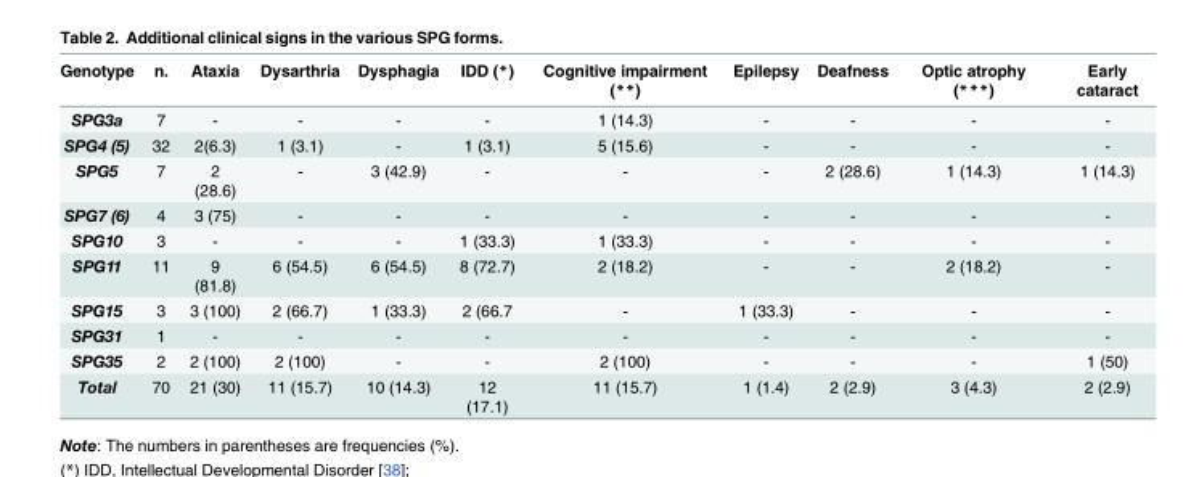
<table><thead><tr><td>Genotype</td><td>n.</td><td>Ataxia</td><td>Dysarthria</td><td>Dysphagia</td><td>IDD (*)</td><td>Cognitive impairment (**)</td><td>Epilepsy</td><td>Deafness</td><td>Optic atrophy (***)</td><td>Early cataract</td></tr></thead><tbody><tr><td>SPG3a</td><td>7</td><td>-</td><td>-</td><td>-</td><td>-</td><td>1 (14.3)</td><td>-</td><td>-</td><td>-</td><td>-</td></tr><tr><td>SPG4 (5)</td><td>32</td><td>2(6.3)</td><td>1 (3.1)</td><td>-</td><td>1 (3.1)</td><td>5 (15.6)</td><td>-</td><td>-</td><td>-</td><td>-</td></tr><tr><td>SPG5</td><td>7</td><td>2 (28.6)</td><td>-</td><td>3 (42.9)</td><td>-</td><td>-</td><td>-</td><td>2 (28.6)</td><td>1 (14.3)</td><td>1 (14.3)</td></tr><tr><td>SPG7 (6)</td><td>4</td><td>3 (75)</td><td>-</td><td>-</td><td>-</td><td>-</td><td>-</td><td>-</td><td>-</td><td>-</td></tr><tr><td>SPG10</td><td>3</td><td>-</td><td>-</td><td>-</td><td>1 (33.3)</td><td>1 (33.3)</td><td>-</td><td>-</td><td>-</td><td>-</td></tr><tr><td>SPG11</td><td>11</td><td>9 (81.8)</td><td>6 (54.5)</td><td>6 (54.5)</td><td>8 (72.7)</td><td>2 (18.2)</td><td>-</td><td>-</td><td>2 (18.2)</td><td>-</td></tr><tr><td>SPG15</td><td>3</td><td>3 (100)</td><td>2 (66.7)</td><td>1 (33.3)</td><td>2 (66.7</td><td>-</td><td>1 (33.3)</td><td>-</td><td>-</td><td>-</td></tr><tr><td>SPG31</td><td>1</td><td>-</td><td>-</td><td>-</td><td>-</td><td>-</td><td>-</td><td>-</td><td>-</td><td>-</td></tr><tr><td>SPG35</td><td>2</td><td>2 (100)</td><td>2 (100)</td><td>-</td><td>-</td><td>2 (100)</td><td>-</td><td>-</td><td>-</td><td>1 (50)</td></tr><tr><td>Total</td><td>70</td><td>21 (30)</td><td>11 (15.7)</td><td>10 (14.3)</td><td>12 (17.1)</td><td>11 (15.7)</td><td>1 (1.4)</td><td>2 (2.9)</td><td>3 (4.3)</td><td>2 (2.9)</td></tr></tbody></table>